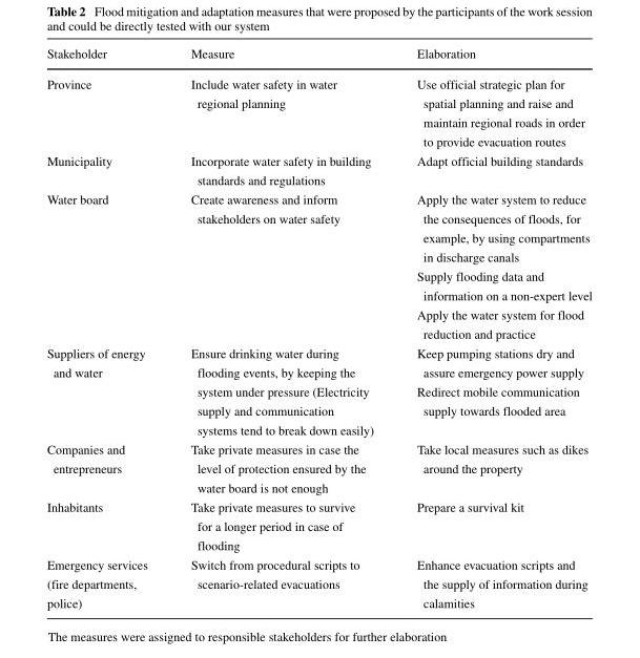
<table><thead><tr><td>Stakeholder</td><td>Measure</td><td>Elaboration</td></tr></thead><tbody><tr><td rowspan="4">Province</td><td>Include water safety in water</td><td>Use official strategic plan for</td></tr><tr><td>regional planning</td><td>spatial planning and raise and</td></tr><tr><td></td><td>maintain regional roads in order</td></tr><tr><td></td><td>to provide evacuation routes</td></tr><tr><td rowspan="2">Municipality</td><td>Incorporate water safety in building</td><td>Adapt official building standards</td></tr><tr><td>standards and regulations</td><td></td></tr><tr><td rowspan="8">Water board</td><td>Create awareness and inform</td><td>Apply the water system to reduce</td></tr><tr><td>stakeholders on water safety</td><td>the consequences of floods, for</td></tr><tr><td></td><td>example, by using compartments</td></tr><tr><td></td><td>in discharge canals</td></tr><tr><td></td><td>Supply flooding data and</td></tr><tr><td></td><td>information on a non-expert level</td></tr><tr><td></td><td>Apply the water system for flood</td></tr><tr><td></td><td>reduction and practice</td></tr><tr><td>Suppliers of energy</td><td>Ensure drinking water during</td><td>Keep pumping stations dry and</td></tr><tr><td rowspan="4">and water</td><td>flooding events, by keeping the</td><td>assure emergency power supply</td></tr><tr><td>system under pressure (Electricity</td><td>Redirect mobile communication</td></tr><tr><td>supply and communication</td><td>supply towards flooded area</td></tr><tr><td>systems tend to break down easily)</td><td></td></tr><tr><td>Companies and</td><td>Take private measures in case the</td><td>Take local measures such as dikes</td></tr><tr><td rowspan="2">entrepreneurs</td><td>level of protection ensured by the</td><td>around the property</td></tr><tr><td>water board is not enough</td><td></td></tr><tr><td rowspan="3">Inhabitants</td><td>Take private measures to survive</td><td>Prepare a survival kit</td></tr><tr><td>for a longer period in case of</td><td></td></tr><tr><td>flooding</td><td></td></tr><tr><td>Emergency services</td><td>Switch from procedural scripts to</td><td>Enhance evacuation scripts and</td></tr><tr><td>(fire departments,</td><td>scenario-related evacuations</td><td>the supply of information during</td></tr><tr><td>police)</td><td></td><td>calamities</td></tr></tbody></table>